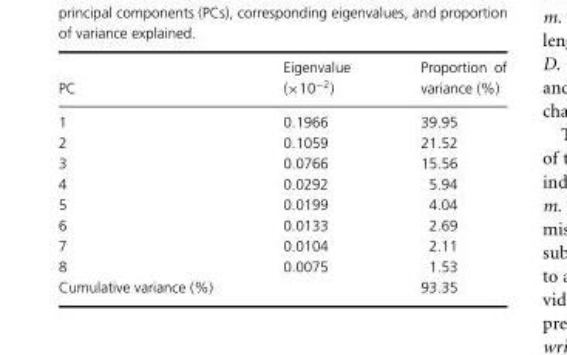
<table><thead><tr><td>PC</td><td>Eigenvalue (×10<sup>−2</sup>)</td><td>Proportion of variance (%)</td></tr></thead><tbody><tr><td>1</td><td>0.1966</td><td>39.95</td></tr><tr><td>2</td><td>0.1059</td><td>21.52</td></tr><tr><td>3</td><td>0.0766</td><td>15.56</td></tr><tr><td>4</td><td>0.0292</td><td>5.94</td></tr><tr><td>5</td><td>0.0199</td><td>4.04</td></tr><tr><td>6</td><td>0.0133</td><td>2.69</td></tr><tr><td>7</td><td>0.0104</td><td>2.11</td></tr><tr><td>8</td><td>0.0075</td><td>1.53</td></tr><tr><td>Cumulative variance (%)</td><td></td><td>93.35</td></tr></tbody></table>